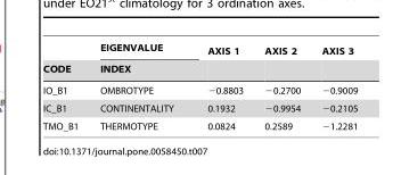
<table><thead><tr><td rowspan="2">CODE</td><td rowspan="2">EIGENVALUE INDEX</td><td rowspan="2">AXIS 1</td><td rowspan="2">AXIS 2</td><td rowspan="2">AXIS 3</td></tr><tr></tr></thead><tbody><tr><td>IO_B1</td><td>OMBROTYPE</td><td>−0.8803</td><td>−0.2700</td><td>−0.9009</td></tr><tr><td>IC_B1</td><td>CONTINENTALITY</td><td>0.1932</td><td>−0.9954</td><td>−0.2105</td></tr><tr><td>TMO_B1</td><td>THERMOTYPE</td><td>0.0824</td><td>0.2589</td><td>−1.2281</td></tr></tbody></table>